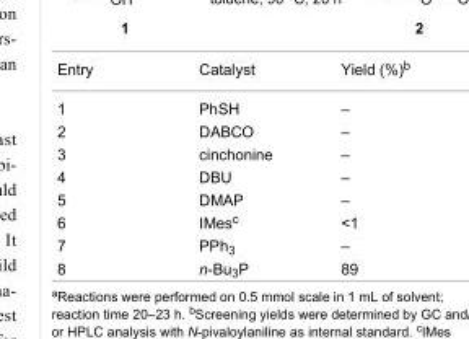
<table><tbody><tr><td>Entry</td><td>Catalyst</td><td>Yield (%)<sup>b</sup></td></tr><tr><td>1</td><td>PhSH</td><td>–</td></tr><tr><td>2</td><td>DABCO</td><td>–</td></tr><tr><td>3</td><td>cinchonine</td><td>–</td></tr><tr><td>4</td><td>DBU</td><td>–</td></tr><tr><td>5</td><td>DMAP</td><td>–</td></tr><tr><td>6</td><td>IMes<sup>c</sup></td><td>&lt;1</td></tr><tr><td>7</td><td>PPh<sub>3</sub></td><td>–</td></tr><tr><td>8</td><td>n-Bu<sub>3</sub>P</td><td>89</td></tr></tbody></table>